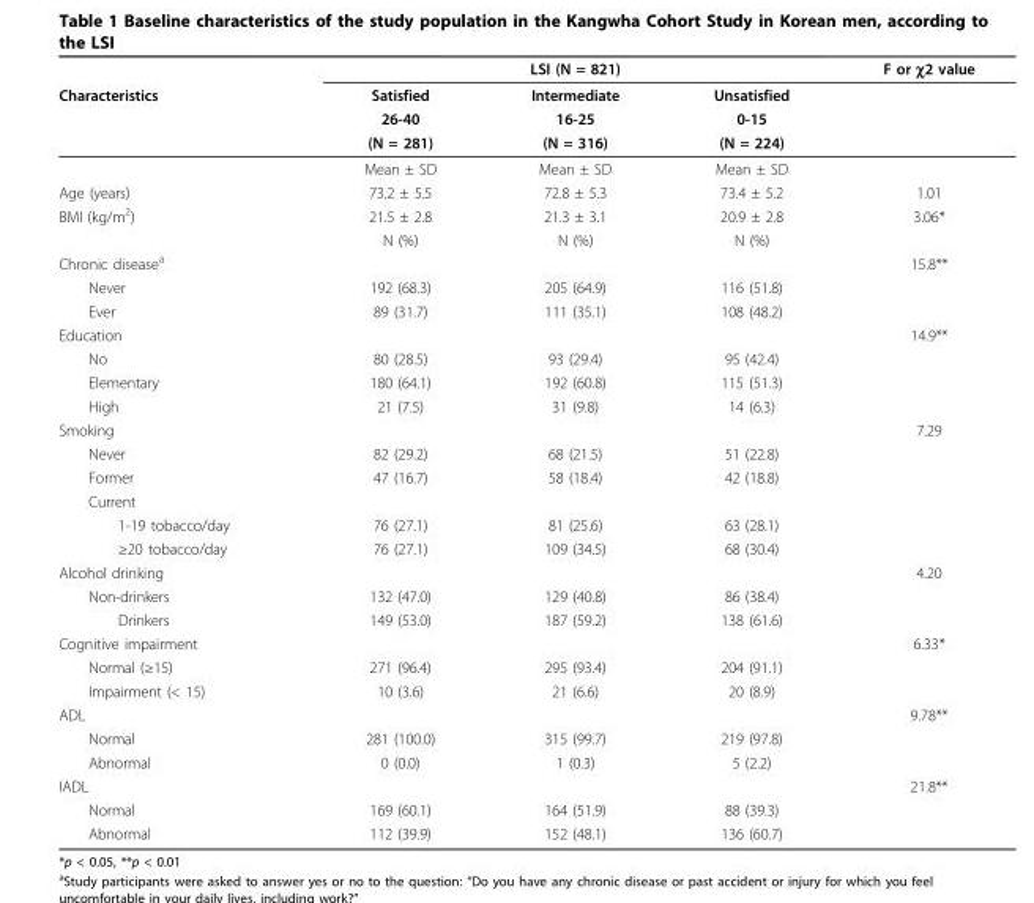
<table><thead><tr><td rowspan="4">Characteristics</td><td rowspan="4">Satisfied 26-40 (N = 281)</td><td rowspan="4">LSI (N = 821) Intermediate 16-25 (N = 316)</td><td rowspan="4">Unsatisfied 0-15 (N = 224)</td><td rowspan="4">F or χ2 value</td></tr><tr></tr><tr></tr><tr></tr></thead><tbody><tr><td></td><td>Mean ± SD</td><td>Mean ± SD</td><td>Mean ± SD</td><td></td></tr><tr><td>Age (years)</td><td>73.2 ± 5.5</td><td>72.8 ± 5.3</td><td>73.4 ± 5.2</td><td>1.01</td></tr><tr><td rowspan="2">BMI (kg/m<sup>2</sup>)</td><td>21.5 ± 2.8</td><td>21.3 ± 3.1</td><td>20.9 ± 2.8</td><td>3.06*</td></tr><tr><td>N (%)</td><td>N (%)</td><td>N (%)</td><td></td></tr><tr><td>Chronic disease<sup>a</sup></td><td></td><td></td><td></td><td>15.8**</td></tr><tr><td>Never</td><td>192 (68.3)</td><td>205 (64.9)</td><td>116 (51.8)</td><td></td></tr><tr><td>Ever</td><td>89 (31.7)</td><td>111 (35.1)</td><td>108 (48.2)</td><td></td></tr><tr><td>Education</td><td></td><td></td><td></td><td>14.9**</td></tr><tr><td>No</td><td>80 (28.5)</td><td>93 (29.4)</td><td>95 (42.4)</td><td></td></tr><tr><td>Elementary</td><td>180 (64.1)</td><td>192 (60.8)</td><td>115 (51.3)</td><td></td></tr><tr><td>High</td><td>21 (7.5)</td><td>31 (9.8)</td><td>14 (6.3)</td><td></td></tr><tr><td>Smoking</td><td></td><td></td><td></td><td>7.29</td></tr><tr><td>Never</td><td>82 (29.2)</td><td>68 (21.5)</td><td>51 (22.8)</td><td></td></tr><tr><td>Former</td><td>47 (16.7)</td><td>58 (18.4)</td><td>42 (18.8)</td><td></td></tr><tr><td colspan="5">Current</td></tr><tr><td>1-19 tobacco/day</td><td>76 (27.1)</td><td>81 (25.6)</td><td>63 (28.1)</td><td></td></tr><tr><td>≥20 tobacco/day</td><td>76 (27.1)</td><td>109 (34.5)</td><td>68 (30.4)</td><td></td></tr><tr><td>Alcohol drinking</td><td></td><td></td><td></td><td>4.20</td></tr><tr><td>Non-drinkers</td><td>132 (47.0)</td><td>129 (40.8)</td><td>86 (38.4)</td><td></td></tr><tr><td>Drinkers</td><td>149 (53.0)</td><td>187 (59.2)</td><td>138 (61.6)</td><td></td></tr><tr><td>Cognitive impairment</td><td></td><td></td><td></td><td>6.33*</td></tr><tr><td>Normal (≥15)</td><td>271 (96.4)</td><td>295 (93.4)</td><td>204 (91.1)</td><td></td></tr><tr><td>Impairment (&lt; 15)</td><td>10 (3.6)</td><td>21 (6.6)</td><td>20 (8.9)</td><td></td></tr><tr><td>ADL</td><td></td><td></td><td></td><td>9.78**</td></tr><tr><td>Normal</td><td>281 (100.0)</td><td>315 (99.7)</td><td>219 (97.8)</td><td></td></tr><tr><td>Abnormal</td><td>0 (0.0)</td><td>1 (0.3)</td><td>5 (2.2)</td><td></td></tr><tr><td>IADL</td><td></td><td></td><td></td><td>21.8**</td></tr><tr><td>Normal</td><td>169 (60.1)</td><td>164 (51.9)</td><td>88 (39.3)</td><td></td></tr><tr><td>Abnormal</td><td>112 (39.9)</td><td>152 (48.1)</td><td>136 (60.7)</td><td></td></tr></tbody></table>